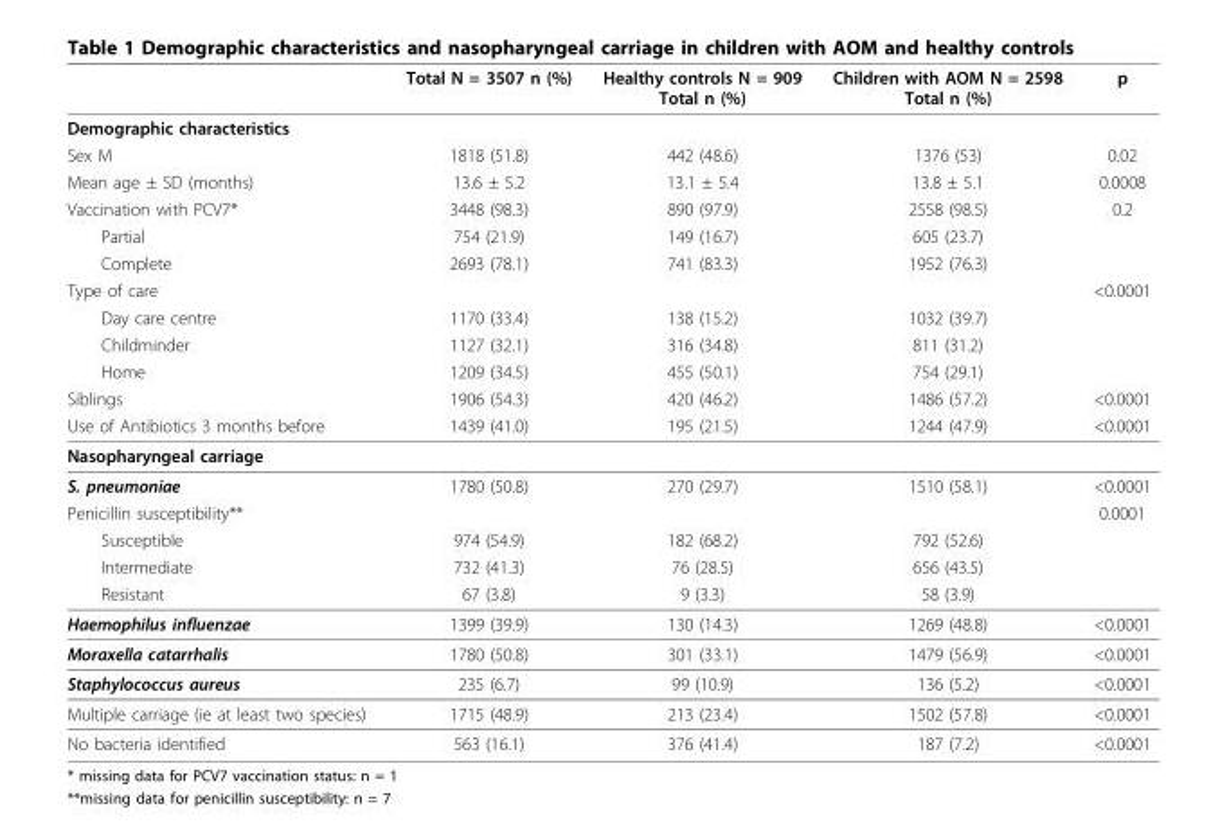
<table><thead><tr><td></td><td>Total N = 3507 n (%)</td><td>Healthy controls N = 909 Total n (%)</td><td>Children with AOM N = 2598 Total n (%)</td><td>p</td></tr></thead><tbody><tr><td colspan="5">Demographic characteristics</td></tr><tr><td>Sex M</td><td>1818 (51.8)</td><td>442 (48.6)</td><td>1376 (53)</td><td>0.02</td></tr><tr><td>Mean age ± SD (months)</td><td>13.6 ± 5.2</td><td>13.1 ± 5.4</td><td>13.8 ± 5.1</td><td>0.0008</td></tr><tr><td>Vaccination with PCV7*</td><td>3448 (98.3)</td><td>890 (97.9)</td><td>2558 (98.5)</td><td>0.2</td></tr><tr><td>Partial</td><td>754 (21.9)</td><td>149 (16.7)</td><td>605 (23.7)</td><td></td></tr><tr><td>Complete</td><td>2693 (78.1)</td><td>741 (83.3)</td><td>1952 (76.3)</td><td></td></tr><tr><td>Type of care</td><td></td><td></td><td></td><td>&lt;0.0001</td></tr><tr><td>Day care centre</td><td>1170 (33.4)</td><td>138 (15.2)</td><td>1032 (39.7)</td><td></td></tr><tr><td>Childminder</td><td>1127 (32.1)</td><td>316 (34.8)</td><td>811 (31.2)</td><td></td></tr><tr><td>Home</td><td>1209 (34.5)</td><td>455 (50.1)</td><td>754 (29.1)</td><td></td></tr><tr><td>Siblings</td><td>1906 (54.3)</td><td>420 (46.2)</td><td>1486 (57.2)</td><td>&lt;0.0001</td></tr><tr><td>Use of Antibiotics 3 months before</td><td>1439 (41.0)</td><td>195 (21.5)</td><td>1244 (47.9)</td><td>&lt;0.0001</td></tr><tr><td colspan="5">Nasopharyngeal carriage</td></tr><tr><td>S. pneumoniae</td><td>1780 (50.8)</td><td>270 (29.7)</td><td>1510 (58.1)</td><td>&lt;0.0001</td></tr><tr><td>Penicillin susceptibility**</td><td></td><td></td><td></td><td>0.0001</td></tr><tr><td>Susceptible</td><td>974 (54.9)</td><td>182 (68.2)</td><td>792 (52.6)</td><td></td></tr><tr><td>Intermediate</td><td>732 (41.3)</td><td>76 (28.5)</td><td>656 (43.5)</td><td></td></tr><tr><td>Resistant</td><td>67 (3.8)</td><td>9 (3.3)</td><td>58 (3.9)</td><td></td></tr><tr><td>Haemophilus influenzae</td><td>1399 (39.9)</td><td>130 (14.3)</td><td>1269 (48.8)</td><td>&lt;0.0001</td></tr><tr><td>Moraxella catarrhalis</td><td>1780 (50.8)</td><td>301 (33.1)</td><td>1479 (56.9)</td><td>&lt;0.0001</td></tr><tr><td>Staphylococcus aureus</td><td>235 (6.7)</td><td>99 (10.9)</td><td>136 (5.2)</td><td>&lt;0.0001</td></tr><tr><td>Multiple carriage (ie at least two species)</td><td>1715 (48.9)</td><td>213 (23.4)</td><td>1502 (57.8)</td><td>&lt;0.0001</td></tr><tr><td>No bacteria identified</td><td>563 (16.1)</td><td>376 (41.4)</td><td>187 (7.2)</td><td>&lt;0.0001</td></tr></tbody></table>